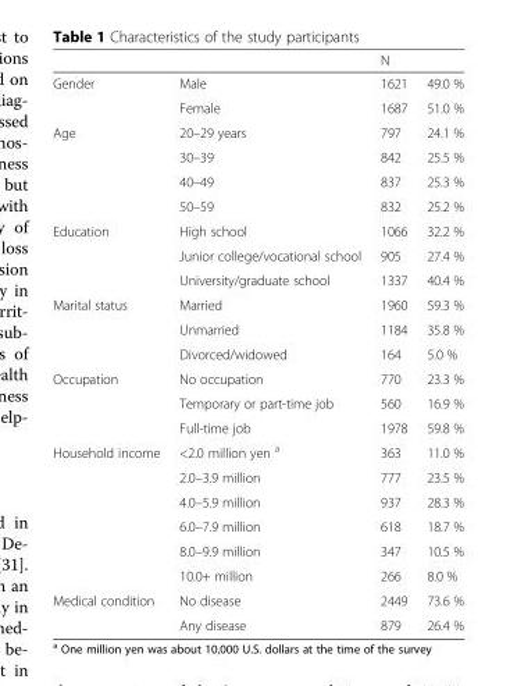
<table><thead><tr><td></td><td></td><td>N</td><td></td></tr></thead><tbody><tr><td rowspan="2">Gender</td><td>Male</td><td>1621</td><td>49.0 %</td></tr><tr><td>Female</td><td>1687</td><td>51.0 %</td></tr><tr><td rowspan="4">Age</td><td>20–29 years</td><td>797</td><td>24.1 %</td></tr><tr><td>30–39</td><td>842</td><td>25.5 %</td></tr><tr><td>40–49</td><td>837</td><td>25.3 %</td></tr><tr><td>50–59</td><td>832</td><td>25.2 %</td></tr><tr><td rowspan="3">Education</td><td>High school</td><td>1066</td><td>32.2 %</td></tr><tr><td>Junior college/vocational school</td><td>905</td><td>27.4 %</td></tr><tr><td>University/graduate school</td><td>1337</td><td>40.4 %</td></tr><tr><td rowspan="3">Marital status</td><td>Married</td><td>1960</td><td>59.3 %</td></tr><tr><td>Unmarried</td><td>1184</td><td>35.8 %</td></tr><tr><td>Divorced/widowed</td><td>164</td><td>5.0 %</td></tr><tr><td rowspan="3">Occupation</td><td>No occupation</td><td>770</td><td>23.3 %</td></tr><tr><td>Temporary or part-time job</td><td>560</td><td>16.9 %</td></tr><tr><td>Full-time job</td><td>1978</td><td>59.8 %</td></tr><tr><td rowspan="6">Household income</td><td>&lt;2.0 million yen <sup>a</sup></td><td>363</td><td>11.0 %</td></tr><tr><td>2.0–3.9 million</td><td>777</td><td>23.5 %</td></tr><tr><td>4.0–5.9 million</td><td>937</td><td>28.3 %</td></tr><tr><td>6.0–7.9 million</td><td>618</td><td>18.7 %</td></tr><tr><td>8.0–9.9 million</td><td>347</td><td>10.5 %</td></tr><tr><td>10.0+ million</td><td>266</td><td>8.0 %</td></tr><tr><td rowspan="2">Medical condition</td><td>No disease</td><td>2449</td><td>73.6 %</td></tr><tr><td>Any disease</td><td>879</td><td>26.4 %</td></tr></tbody></table>